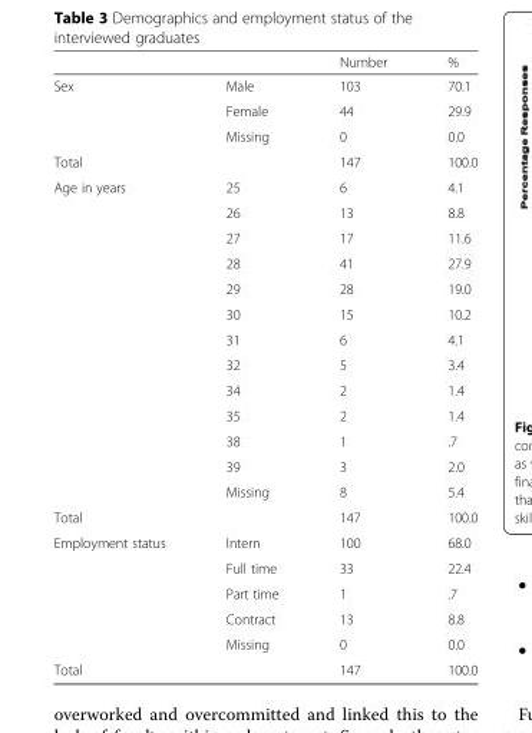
<table><thead><tr><td></td><td></td><td>Number</td><td>%</td></tr></thead><tbody><tr><td rowspan="3">Sex</td><td>Male</td><td>103</td><td>70.1</td></tr><tr><td>Female</td><td>44</td><td>29.9</td></tr><tr><td>Missing</td><td>0</td><td>0.0</td></tr><tr><td>Total</td><td></td><td>147</td><td>100.0</td></tr><tr><td rowspan="13">Age in years</td><td>25</td><td>6</td><td>4.1</td></tr><tr><td>26</td><td>13</td><td>8.8</td></tr><tr><td>27</td><td>17</td><td>11.6</td></tr><tr><td>28</td><td>41</td><td>27.9</td></tr><tr><td>29</td><td>28</td><td>19.0</td></tr><tr><td>30</td><td>15</td><td>10.2</td></tr><tr><td>31</td><td>6</td><td>4.1</td></tr><tr><td>32</td><td>5</td><td>3.4</td></tr><tr><td>34</td><td>2</td><td>1.4</td></tr><tr><td>35</td><td>2</td><td>1.4</td></tr><tr><td>38</td><td>1</td><td>.7</td></tr><tr><td>39</td><td>3</td><td>2.0</td></tr><tr><td>Missing</td><td>8</td><td>5.4</td></tr><tr><td>Total</td><td></td><td>147</td><td>100.0</td></tr><tr><td rowspan="5">Employment status</td><td>Intern</td><td>100</td><td>68.0</td></tr><tr><td>Full time</td><td>33</td><td>22.4</td></tr><tr><td>Part time</td><td>1</td><td>.7</td></tr><tr><td>Contract</td><td>13</td><td>8.8</td></tr><tr><td>Missing</td><td>0</td><td>0.0</td></tr><tr><td>Total</td><td></td><td>147</td><td>100.0</td></tr></tbody></table>